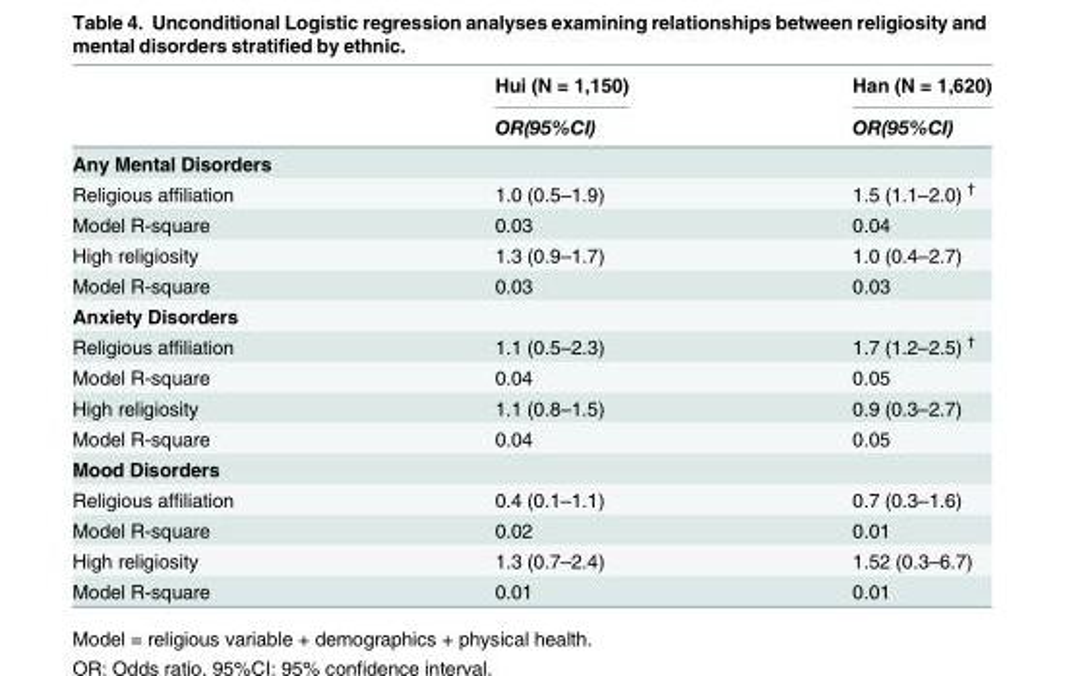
<table><thead><tr><td rowspan="2"></td><td rowspan="2">Hui (N = 1,150) OR(95%CI)</td><td rowspan="2">Han (N = 1,620) OR(95%CI)</td></tr><tr></tr></thead><tbody><tr><td colspan="3">Any Mental Disorders</td></tr><tr><td>Religious affiliation</td><td>1.0 (0.5–1.9)</td><td>1.5 (1.1–2.0) <sup>†</sup></td></tr><tr><td>Model R-square</td><td>0.03</td><td>0.04</td></tr><tr><td>High religiosity</td><td>1.3 (0.9–1.7)</td><td>1.0 (0.4–2.7)</td></tr><tr><td>Model R-square</td><td>0.03</td><td>0.03</td></tr><tr><td colspan="3">Anxiety Disorders</td></tr><tr><td>Religious affiliation</td><td>1.1 (0.5–2.3)</td><td>1.7 (1.2–2.5) <sup>†</sup></td></tr><tr><td>Model R-square</td><td>0.04</td><td>0.05</td></tr><tr><td>High religiosity</td><td>1.1 (0.8–1.5)</td><td>0.9 (0.3–2.7)</td></tr><tr><td>Model R-square</td><td>0.04</td><td>0.05</td></tr><tr><td colspan="3">Mood Disorders</td></tr><tr><td>Religious affiliation</td><td>0.4 (0.1–1.1)</td><td>0.7 (0.3–1.6)</td></tr><tr><td>Model R-square</td><td>0.02</td><td>0.01</td></tr><tr><td>High religiosity</td><td>1.3 (0.7–2.4)</td><td>1.52 (0.3–6.7)</td></tr><tr><td>Model R-square</td><td>0.01</td><td>0.01</td></tr></tbody></table>